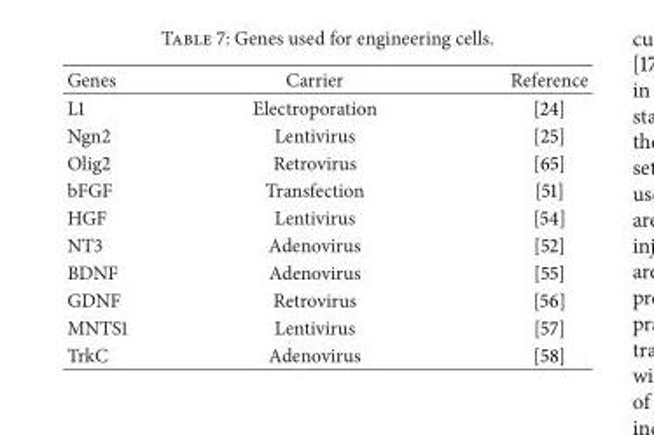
<table><thead><tr><td>Genes</td><td>Carrier</td><td>Reference</td></tr></thead><tbody><tr><td>L1</td><td>Electroporation</td><td>[24]</td></tr><tr><td>Ngn2</td><td>Lentivirus</td><td>[25]</td></tr><tr><td>Olig2</td><td>Retrovirus</td><td>[65]</td></tr><tr><td>bFGF</td><td>Transfection</td><td>[51]</td></tr><tr><td>HGF</td><td>Lentivirus</td><td>[54]</td></tr><tr><td>NT3</td><td>Adenovirus</td><td>[52]</td></tr><tr><td>BDNF</td><td>Adenovirus</td><td>[55]</td></tr><tr><td>GDNF</td><td>Retrovirus</td><td>[56]</td></tr><tr><td>MNTS1</td><td>Lentivirus</td><td>[57]</td></tr><tr><td>TrkC</td><td>Adenovirus</td><td>[58]</td></tr></tbody></table>